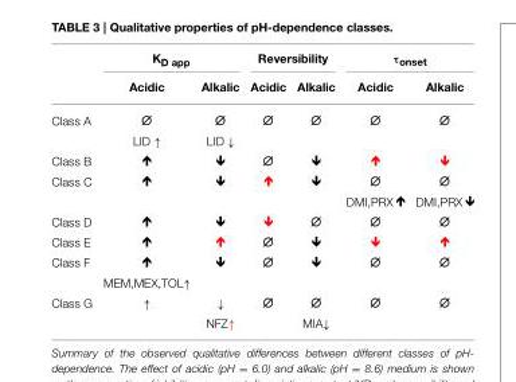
<table><thead><tr><td rowspan="2"></td><td colspan="2">K<sub>D app</sub></td><td colspan="2">Reversibility</td><td colspan="2">τ<sub>onset</sub></td></tr><tr><td>Acidic</td><td>Alkalic</td><td>Acidic</td><td>Alkalic</td><td>Acidic</td><td>Alkalic</td></tr></thead><tbody><tr><td colspan="7">Class A</td></tr><tr><td></td><td>LID ↑</td><td>LID ↓</td><td></td><td></td><td></td><td></td></tr><tr><td colspan="7">Class B</td></tr><tr><td colspan="7">Class C</td></tr><tr><td></td><td></td><td></td><td></td><td></td><td>DMI,PRX</td><td>DMI,PRX</td></tr><tr><td colspan="7">Class D</td></tr><tr><td colspan="7">Class E</td></tr><tr><td colspan="7">Class F</td></tr><tr><td></td><td>MEM,MEX,TOL↑</td><td></td><td></td><td></td><td></td><td></td></tr><tr><td rowspan="2">Class G</td><td>↑</td><td>↓</td><td></td><td></td><td></td><td></td></tr><tr><td></td><td>NFZ↑</td><td></td><td>MIA↓</td><td></td><td></td></tr></tbody></table>